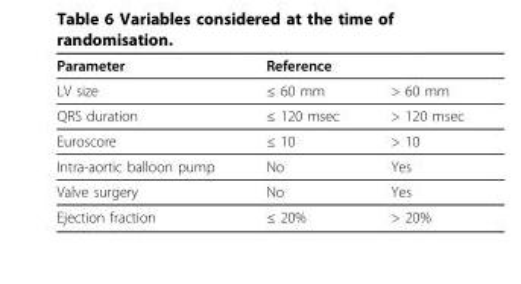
<table><thead><tr><td rowspan="2">Parameter LV size</td><td colspan="2">Reference</td></tr><tr><td>≤ 60 mm</td><td>&gt; 60 mm</td></tr></thead><tbody><tr><td>QRS duration</td><td>≤ 120 msec</td><td>&gt; 120 msec</td></tr><tr><td>Euroscore</td><td>≤ 10</td><td>&gt; 10</td></tr><tr><td>Intra-aortic balloon pump</td><td>No</td><td>Yes</td></tr><tr><td>Valve surgery</td><td>No</td><td>Yes</td></tr><tr><td>Ejection fraction</td><td>≤ 20%</td><td>&gt; 20%</td></tr></tbody></table>